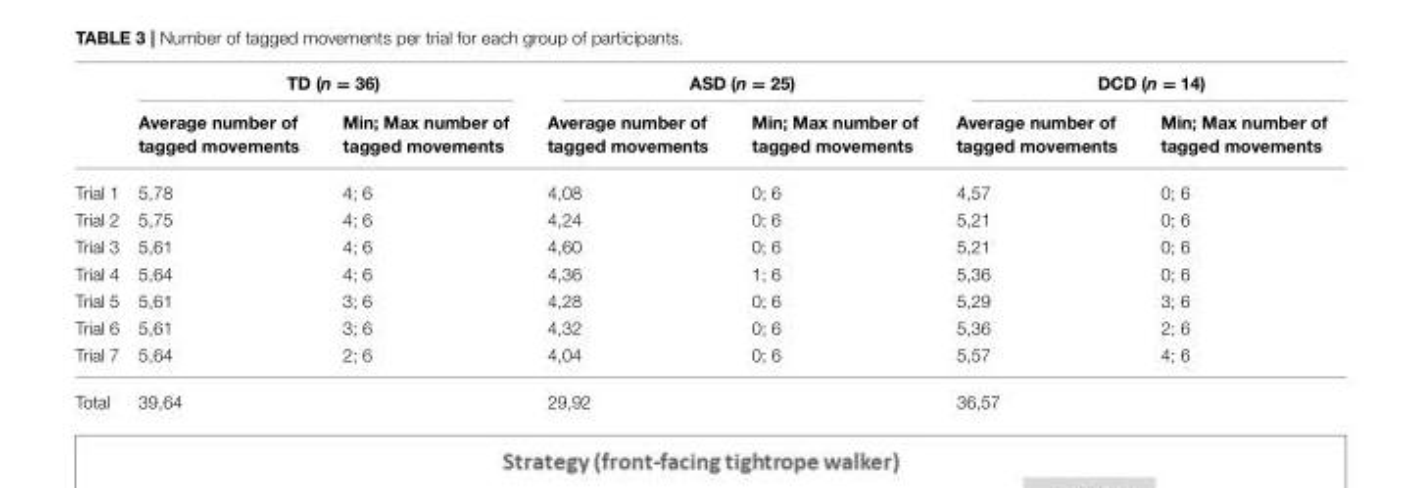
<table><thead><tr><td rowspan="2"></td><td colspan="2">TD (n = 36)</td><td colspan="2">ASD (n = 25)</td><td colspan="2">DCD (n = 14)</td></tr><tr><td>Average number of tagged movements</td><td>Min; Max number of tagged movements</td><td>Average number of tagged movements</td><td>Min; Max number of tagged movements</td><td>Average number of tagged movements</td><td>Min; Max number of tagged movements</td></tr></thead><tbody><tr><td>Trial 1</td><td>5,78</td><td>4; 6</td><td>4,08</td><td>0; 6</td><td>4,57</td><td>0; 6</td></tr><tr><td>Trial 2</td><td>5,75</td><td>4; 6</td><td>4,24</td><td>0; 6</td><td>5,21</td><td>0; 6</td></tr><tr><td>Trial 3</td><td>5,61</td><td>4; 6</td><td>4,60</td><td>0; 6</td><td>5,21</td><td>0; 6</td></tr><tr><td>Trial 4</td><td>5,64</td><td>4; 6</td><td>4,36</td><td>1; 6</td><td>5,36</td><td>0; 6</td></tr><tr><td>Trial 5</td><td>5,61</td><td>3; 6</td><td>4,28</td><td>0; 6</td><td>5,29</td><td>3; 6</td></tr><tr><td>Trial 6</td><td>5,61</td><td>3; 6</td><td>4,32</td><td>0; 6</td><td>5,36</td><td>2; 6</td></tr><tr><td>Trial 7</td><td>5,64</td><td>2; 6</td><td>4,04</td><td>0; 6</td><td>5,57</td><td>4; 6</td></tr><tr><td>Total</td><td>39,64</td><td></td><td>29,92</td><td></td><td>36,57</td><td></td></tr></tbody></table>